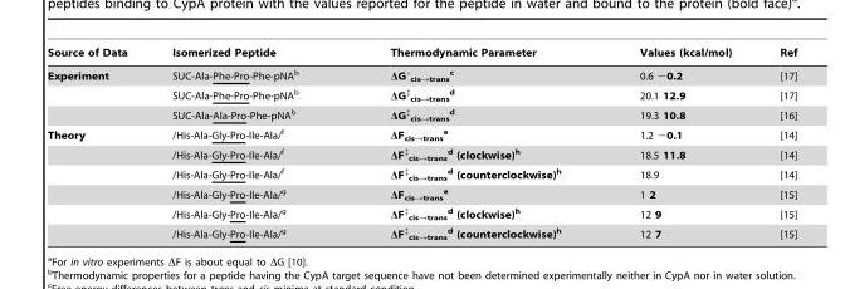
<table><thead><tr><td>Source of Data</td><td>Isomerized Peptide</td><td>Thermodynamic Parameter</td><td>Values (kcal/mol)</td><td>Ref</td></tr></thead><tbody><tr><td rowspan="3">Experiment</td><td>SUC-Ala-Phe-Pro-Phe-pNA<sup>b</sup></td><td>ΔG°<sub>cis→trans</sub> c</td><td>0.6 −0.2</td><td>[17]</td></tr><tr><td>SUC-Ala-Phe-Pro-Phe-pNA<sup>b</sup></td><td>ΔG<sup>‡</sup> <sub>cis→trans</sub> d</td><td>20.1 12.9</td><td>[17]</td></tr><tr><td>SUC-Ala-Ala-Pro-Phe-pNA<sup>b</sup></td><td>ΔG<sup>‡</sup> <sub>cis→trans</sub> d</td><td>19.3 10.8</td><td>[16]</td></tr><tr><td rowspan="6">Theory</td><td>/His-Ala-Gly-Pro-Ile-Ala/f</td><td>ΔF<sub>cis→trans</sub> e</td><td>1.2 −0.1</td><td>[14]</td></tr><tr><td>/His-Ala-Gly-Pro-Ile-Ala/f</td><td>ΔF<sup>‡</sup> <sub>cis→trans</sub> d (clockwise)h</td><td>18.5 11.8</td><td>[14]</td></tr><tr><td>/His-Ala-Gly-Pro-Ile-Ala/f</td><td>ΔF<sup>‡</sup> <sub>cis→trans</sub> d (counterclockwise)h</td><td>18.9</td><td>[14]</td></tr><tr><td>/His-Ala-Gly-Pro-Ile-Ala/g</td><td>ΔF<sub>cis→trans</sub> e</td><td>1 2</td><td>[15]</td></tr><tr><td>/His-Ala-Gly-Pro-Ile-Ala/g</td><td>ΔF<sup>‡</sup> <sub>cis→trans</sub> d (clockwise)h</td><td>12 9</td><td>[15]</td></tr><tr><td>/His-Ala-Gly-Pro-Ile-Ala/g</td><td>ΔF<sup>‡</sup> <sub>cis→trans</sub> d (counterclockwise)h</td><td>12 7</td><td>[15]</td></tr></tbody></table>